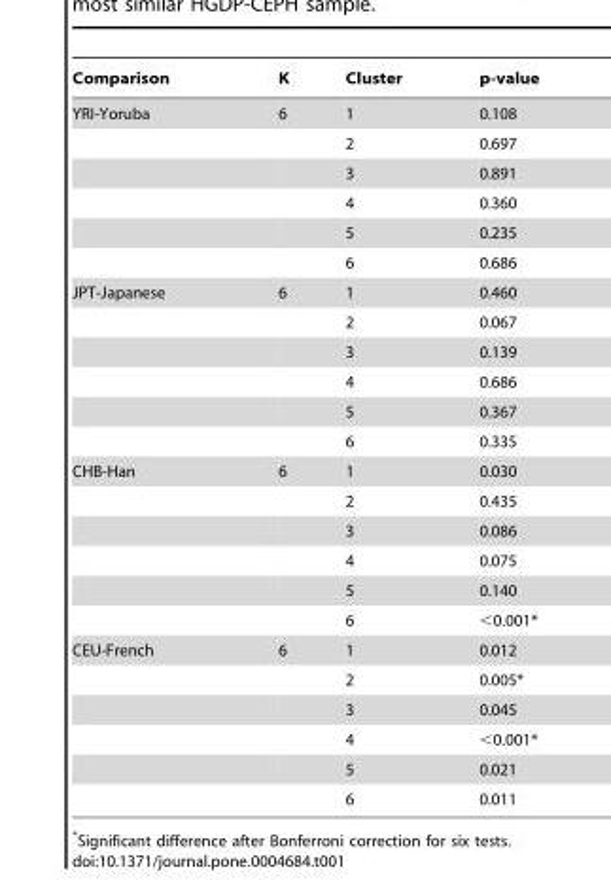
<table><thead><tr><td>Comparison</td><td>K</td><td>Cluster</td><td>p-value</td></tr></thead><tbody><tr><td rowspan="6">YRI-Yoruba</td><td>6</td><td>1</td><td>0.108</td></tr><tr><td></td><td>2</td><td>0.697</td></tr><tr><td></td><td>3</td><td>0.891</td></tr><tr><td></td><td>4</td><td>0.360</td></tr><tr><td></td><td>5</td><td>0.235</td></tr><tr><td></td><td>6</td><td>0.686</td></tr><tr><td rowspan="6">JPT-Japanese</td><td>6</td><td>1</td><td>0.460</td></tr><tr><td></td><td>2</td><td>0.067</td></tr><tr><td></td><td>3</td><td>0.139</td></tr><tr><td></td><td>4</td><td>0.686</td></tr><tr><td></td><td>5</td><td>0.367</td></tr><tr><td></td><td>6</td><td>0.335</td></tr><tr><td rowspan="6">CHB-Han</td><td>6</td><td>1</td><td>0.030</td></tr><tr><td></td><td>2</td><td>0.435</td></tr><tr><td></td><td>3</td><td>0.086</td></tr><tr><td></td><td>4</td><td>0.075</td></tr><tr><td></td><td>5</td><td>0.140</td></tr><tr><td></td><td>6</td><td>&lt;0.001*</td></tr><tr><td rowspan="6">CEU-French</td><td>6</td><td>1</td><td>0.012</td></tr><tr><td></td><td>2</td><td>0.005*</td></tr><tr><td></td><td>3</td><td>0.045</td></tr><tr><td></td><td>4</td><td>&lt;0.001*</td></tr><tr><td></td><td>5</td><td>0.021</td></tr><tr><td></td><td>6</td><td>0.011</td></tr></tbody></table>